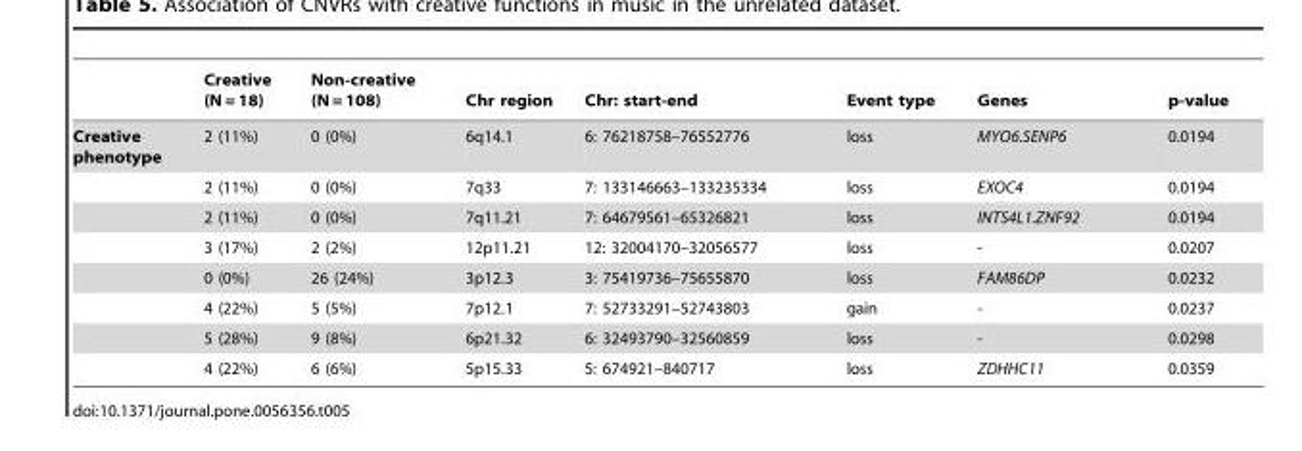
<table><thead><tr><td></td><td>Creative (N = 18)</td><td>Non-creative (N = 108)</td><td>Chr region</td><td>Chr: start-end</td><td>Event type</td><td>Genes</td><td>p-value</td></tr></thead><tbody><tr><td rowspan="8">Creative phenotype</td><td>2 (11%)</td><td>0 (0%)</td><td>6q14.1</td><td>6: 76218758–76552776</td><td>loss</td><td>MYO6.SENP6</td><td>0.0194</td></tr><tr><td>2 (11%)</td><td>0 (0%)</td><td>7q33</td><td>7: 133146663–133235334</td><td>loss</td><td>EXOC4</td><td>0.0194</td></tr><tr><td>2 (11%)</td><td>0 (0%)</td><td>7q11.21</td><td>7: 64679561–65326821</td><td>loss</td><td>INTS4L1.ZNF92</td><td>0.0194</td></tr><tr><td>3 (17%)</td><td>2 (2%)</td><td>12p11.21</td><td>12: 32004170–32056577</td><td>loss</td><td>-</td><td>0.0207</td></tr><tr><td>0 (0%)</td><td>26 (24%)</td><td>3p12.3</td><td>3: 75419736–75655870</td><td>loss</td><td>FAM86DP</td><td>0.0232</td></tr><tr><td>4 (22%)</td><td>5 (5%)</td><td>7p12.1</td><td>7: 52733291–52743803</td><td>gain</td><td>-</td><td>0.0237</td></tr><tr><td>5 (28%)</td><td>9 (8%)</td><td>6p21.32</td><td>6: 32493790–32560859</td><td>loss</td><td>-</td><td>0.0298</td></tr><tr><td>4 (22%)</td><td>6 (6%)</td><td>5p15.33</td><td>5: 674921–840717</td><td>loss</td><td>ZDHHC11</td><td>0.0359</td></tr></tbody></table>